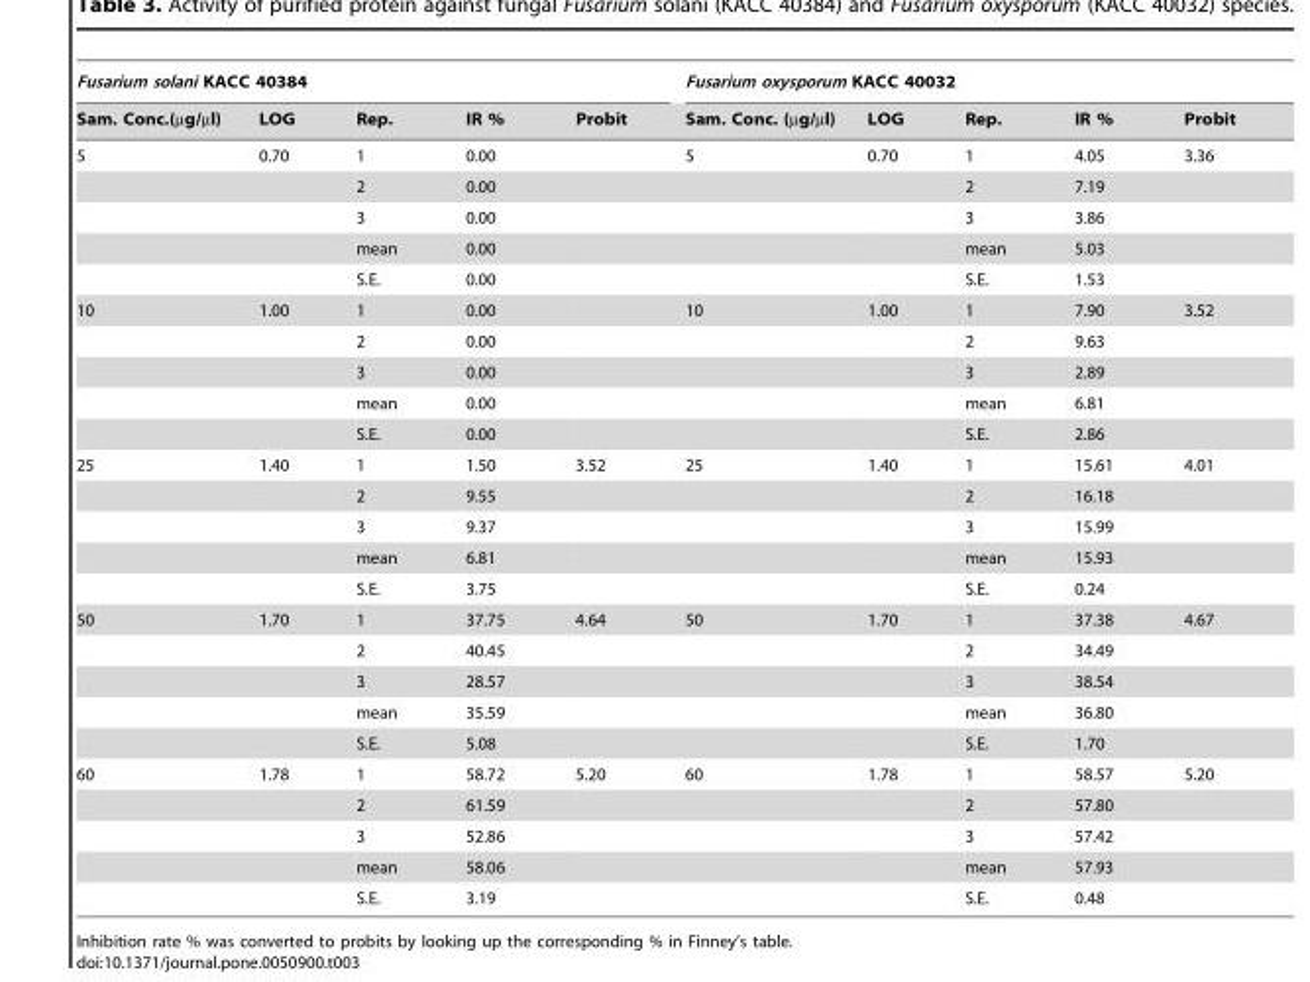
<table><thead><tr><td colspan="5">Fusarium solani KACC 40384</td><td colspan="5">Fusarium oxysporum KACC 40032</td></tr><tr><td>Sam. Conc.(µg/µl)</td><td>LOG</td><td>Rep.</td><td>IR %</td><td>Probit</td><td>Sam. Conc. (µg/µl)</td><td>LOG</td><td>Rep.</td><td>IR %</td><td>Probit</td></tr></thead><tbody><tr><td rowspan="5">5</td><td>0.70</td><td>1</td><td>0.00</td><td></td><td>5</td><td>0.70</td><td>1</td><td>4.05</td><td>3.36</td></tr><tr><td></td><td>2</td><td>0.00</td><td></td><td></td><td></td><td>2</td><td>7.19</td><td></td></tr><tr><td></td><td>3</td><td>0.00</td><td></td><td></td><td></td><td>3</td><td>3.86</td><td></td></tr><tr><td></td><td>mean</td><td>0.00</td><td></td><td></td><td></td><td>mean</td><td>5.03</td><td></td></tr><tr><td></td><td>S.E.</td><td>0.00</td><td></td><td></td><td></td><td>S.E.</td><td>1.53</td><td></td></tr><tr><td rowspan="5">10</td><td>1.00</td><td>1</td><td>0.00</td><td></td><td>10</td><td>1.00</td><td>1</td><td>7.90</td><td>3.52</td></tr><tr><td></td><td>2</td><td>0.00</td><td></td><td></td><td></td><td>2</td><td>9.63</td><td></td></tr><tr><td></td><td>3</td><td>0.00</td><td></td><td></td><td></td><td>3</td><td>2.89</td><td></td></tr><tr><td></td><td>mean</td><td>0.00</td><td></td><td></td><td></td><td>mean</td><td>6.81</td><td></td></tr><tr><td></td><td>S.E.</td><td>0.00</td><td></td><td></td><td></td><td>S.E.</td><td>2.86</td><td></td></tr><tr><td rowspan="5">25</td><td>1.40</td><td>1</td><td>1.50</td><td>3.52</td><td>25</td><td>1.40</td><td>1</td><td>15.61</td><td>4.01</td></tr><tr><td></td><td>2</td><td>9.55</td><td></td><td></td><td></td><td>2</td><td>16.18</td><td></td></tr><tr><td></td><td>3</td><td>9.37</td><td></td><td></td><td></td><td>3</td><td>15.99</td><td></td></tr><tr><td></td><td>mean</td><td>6.81</td><td></td><td></td><td></td><td>mean</td><td>15.93</td><td></td></tr><tr><td></td><td>S.E.</td><td>3.75</td><td></td><td></td><td></td><td>S.E.</td><td>0.24</td><td></td></tr><tr><td rowspan="5">50</td><td>1.70</td><td>1</td><td>37.75</td><td>4.64</td><td>50</td><td>1.70</td><td>1</td><td>37.38</td><td>4.67</td></tr><tr><td></td><td>2</td><td>40.45</td><td></td><td></td><td></td><td>2</td><td>34.49</td><td></td></tr><tr><td></td><td>3</td><td>28.57</td><td></td><td></td><td></td><td>3</td><td>38.54</td><td></td></tr><tr><td></td><td>mean</td><td>35.59</td><td></td><td></td><td></td><td>mean</td><td>36.80</td><td></td></tr><tr><td></td><td>S.E.</td><td>5.08</td><td></td><td></td><td></td><td>S.E.</td><td>1.70</td><td></td></tr><tr><td rowspan="5">60</td><td>1.78</td><td>1</td><td>58.72</td><td>5.20</td><td>60</td><td>1.78</td><td>1</td><td>58.57</td><td>5.20</td></tr><tr><td></td><td>2</td><td>61.59</td><td></td><td></td><td></td><td>2</td><td>57.80</td><td></td></tr><tr><td></td><td>3</td><td>52.86</td><td></td><td></td><td></td><td>3</td><td>57.42</td><td></td></tr><tr><td></td><td>mean</td><td>58.06</td><td></td><td></td><td></td><td>mean</td><td>57.93</td><td></td></tr><tr><td></td><td>S.E.</td><td>3.19</td><td></td><td></td><td></td><td>S.E.</td><td>0.48</td><td></td></tr></tbody></table>